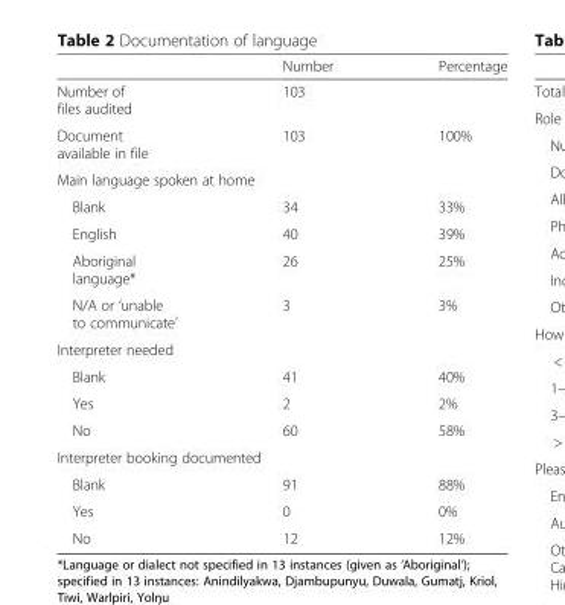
<table><thead><tr><td></td><td>Number</td><td>Percentage</td></tr></thead><tbody><tr><td>Number of files audited</td><td>103</td><td></td></tr><tr><td>Document available in file</td><td>103</td><td>100%</td></tr><tr><td colspan="3">Main language spoken at home</td></tr><tr><td>Blank</td><td>34</td><td>33%</td></tr><tr><td>English</td><td>40</td><td>39%</td></tr><tr><td>Aboriginal language*</td><td>26</td><td>25%</td></tr><tr><td>N/A or ‘unable to communicate’</td><td>3</td><td>3%</td></tr><tr><td colspan="3">Interpreter needed</td></tr><tr><td>Blank</td><td>41</td><td>40%</td></tr><tr><td>Yes</td><td>2</td><td>2%</td></tr><tr><td>No</td><td>60</td><td>58%</td></tr><tr><td colspan="3">Interpreter booking documented</td></tr><tr><td>Blank</td><td>91</td><td>88%</td></tr><tr><td>Yes</td><td>0</td><td>0%</td></tr><tr><td>No</td><td>12</td><td>12%</td></tr></tbody></table>